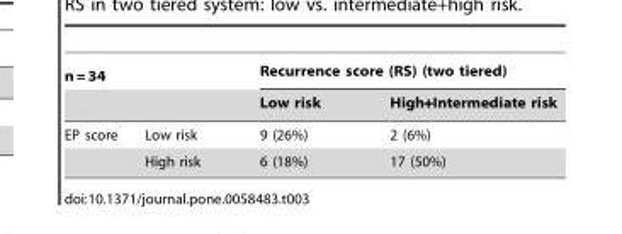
<table><thead><tr><td colspan="2">n = 34</td><td colspan="2">Recurrence score (RS) (two tiered)</td></tr><tr><td></td><td></td><td>Low risk</td><td>High+Intermediate risk</td></tr></thead><tbody><tr><td rowspan="2">EP score</td><td>Low risk</td><td>9 (26%)</td><td>2 (6%)</td></tr><tr><td>High risk</td><td>6 (18%)</td><td>17 (50%)</td></tr></tbody></table>